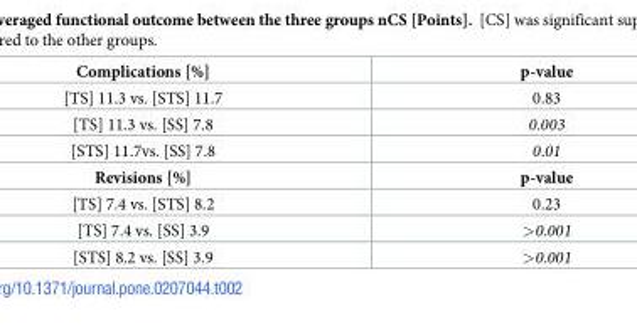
<table><tbody><tr><td>Complications [%]</td><td>p-value</td></tr><tr><td>[TS] 11.3 vs. [STS] 11.7</td><td>0.83</td></tr><tr><td>[TS] 11.3 vs. [SS] 7.8</td><td>0.003</td></tr><tr><td>[STS] 11.7vs. [SS] 7.8</td><td>0.01</td></tr><tr><td>Revisions [%]</td><td>p-value</td></tr><tr><td>[TS] 7.4 vs. [STS] 8.2</td><td>0.23</td></tr><tr><td>[TS] 7.4 vs. [SS] 3.9</td><td>&gt;0.001</td></tr><tr><td>[STS] 8.2 vs. [SS] 3.9</td><td>&gt;0.001</td></tr></tbody></table>